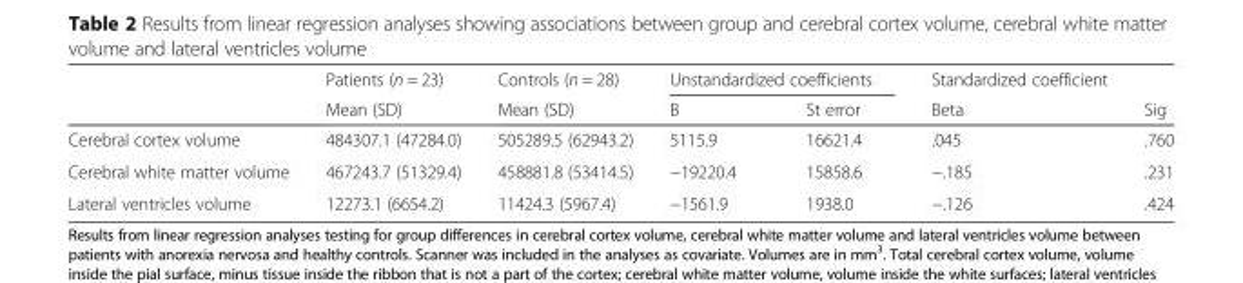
<table><thead><tr><td rowspan="2"></td><td rowspan="2">Patients (n = 23) Mean (SD)</td><td rowspan="2">Controls (n = 28) Mean (SD)</td><td colspan="2">Unstandardized coefficients</td><td rowspan="2">Standardized coefficient Beta</td><td rowspan="2">Sig</td></tr><tr><td>B</td><td>St error</td></tr></thead><tbody><tr><td>Cerebral cortex volume</td><td>484307.1 (47284.0)</td><td>505289.5 (62943.2)</td><td>5115.9</td><td>16621.4</td><td>.045</td><td>.760</td></tr><tr><td>Cerebral white matter volume</td><td>467243.7 (51329.4)</td><td>458881.8 (53414.5)</td><td>−19220.4</td><td>15858.6</td><td>−.185</td><td>.231</td></tr><tr><td>Lateral ventricles volume</td><td>12273.1 (6654.2)</td><td>11424.3 (5967.4)</td><td>−1561.9</td><td>1938.0</td><td>−.126</td><td>.424</td></tr></tbody></table>